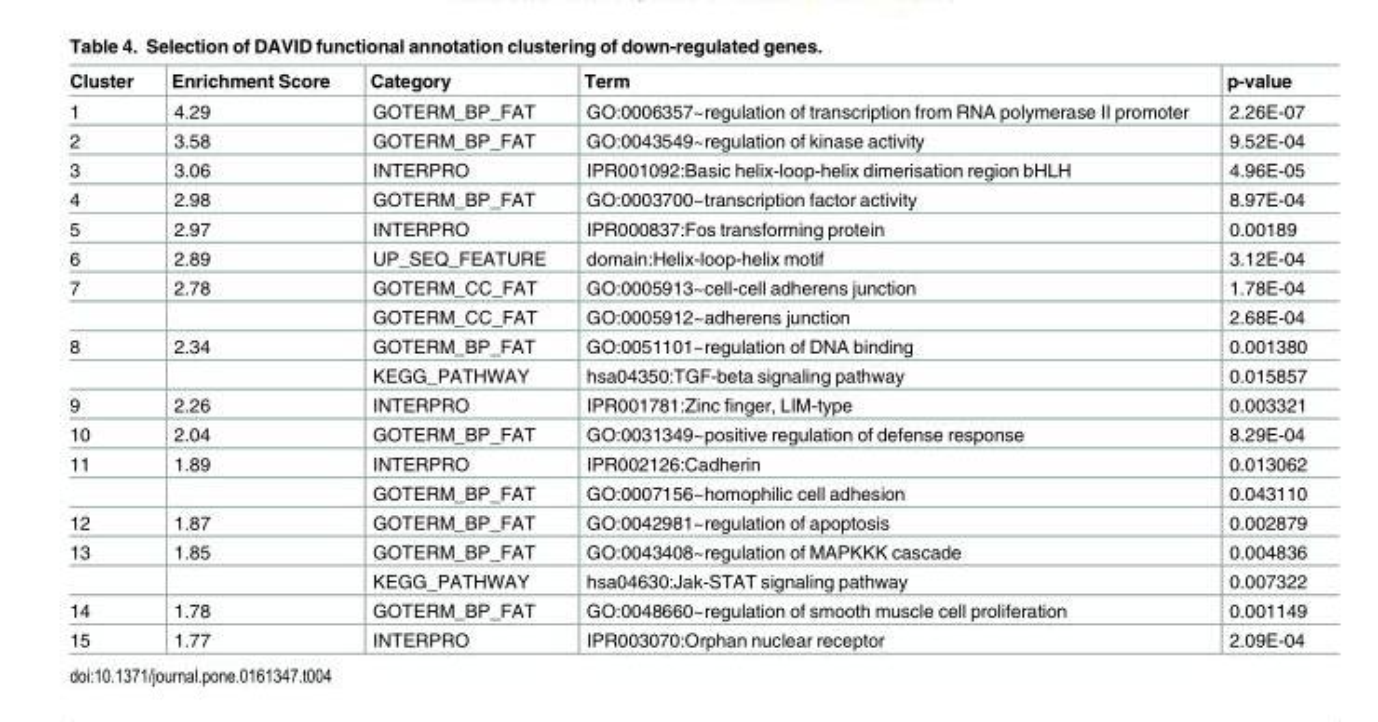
<table><thead><tr><td>Cluster</td><td>Enrichment Score</td><td>Category</td><td>Term</td><td>p-value</td></tr></thead><tbody><tr><td>1</td><td>4.29</td><td>GOTERM_BP_FAT</td><td>GO:0006357~regulation of transcription from RNA polymerase II promoter</td><td>2.26E-07</td></tr><tr><td>2</td><td>3.58</td><td>GOTERM_BP_FAT</td><td>GO:0043549~regulation of kinase activity</td><td>9.52E-04</td></tr><tr><td>3</td><td>3.06</td><td>INTERPRO</td><td>IPR001092:Basic helix-loop-helix dimerisation region bHLH</td><td>4.96E-05</td></tr><tr><td>4</td><td>2.98</td><td>GOTERM_BP_FAT</td><td>GO:0003700~transcription factor activity</td><td>8.97E-04</td></tr><tr><td>5</td><td>2.97</td><td>INTERPRO</td><td>IPR000837:Fos transforming protein</td><td>0.00189</td></tr><tr><td>6</td><td>2.89</td><td>UP_SEQ_FEATURE</td><td>domain:Helix-loop-helix motif</td><td>3.12E-04</td></tr><tr><td rowspan="2">7</td><td>2.78</td><td>GOTERM_CC_FAT</td><td>GO:0005913~cell-cell adherens junction</td><td>1.78E-04</td></tr><tr><td></td><td>GOTERM_CC_FAT</td><td>GO:0005912~adherens junction</td><td>2.68E-04</td></tr><tr><td rowspan="2">8</td><td>2.34</td><td>GOTERM_BP_FAT</td><td>GO:0051101~regulation of DNA binding</td><td>0.001380</td></tr><tr><td></td><td>KEGG_PATHWAY</td><td>hsa04350:TGF-beta signaling pathway</td><td>0.015857</td></tr><tr><td>9</td><td>2.26</td><td>INTERPRO</td><td>IPR001781:Zinc finger, LIM-type</td><td>0.003321</td></tr><tr><td>10</td><td>2.04</td><td>GOTERM_BP_FAT</td><td>GO:0031349~positive regulation of defense response</td><td>8.29E-04</td></tr><tr><td rowspan="2">11</td><td>1.89</td><td>INTERPRO</td><td>IPR002126:Cadherin</td><td>0.013062</td></tr><tr><td></td><td>GOTERM_BP_FAT</td><td>GO:0007156~homophilic cell adhesion</td><td>0.043110</td></tr><tr><td>12</td><td>1.87</td><td>GOTERM_BP_FAT</td><td>GO:0042981~regulation of apoptosis</td><td>0.002879</td></tr><tr><td rowspan="2">13</td><td>1.85</td><td>GOTERM_BP_FAT</td><td>GO:0043408~regulation of MAPKKK cascade</td><td>0.004836</td></tr><tr><td></td><td>KEGG_PATHWAY</td><td>hsa04630:Jak-STAT signaling pathway</td><td>0.007322</td></tr><tr><td>14</td><td>1.78</td><td>GOTERM_BP_FAT</td><td>GO:0048660~regulation of smooth muscle cell proliferation</td><td>0.001149</td></tr><tr><td>15</td><td>1.77</td><td>INTERPRO</td><td>IPR003070:Orphan nuclear receptor</td><td>2.09E-04</td></tr></tbody></table>